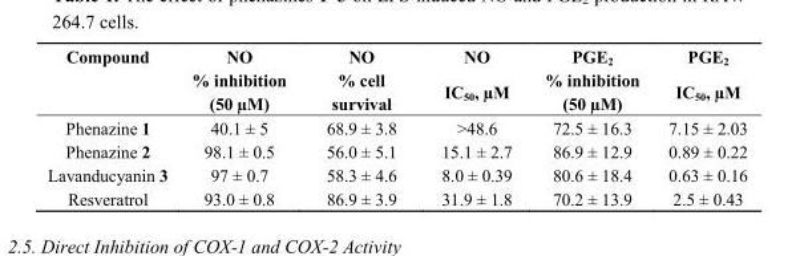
<table><thead><tr><td rowspan="2">Compound</td><td rowspan="2">NO % inhibition (50 µM)</td><td rowspan="2">NO % cell survival</td><td rowspan="2">NO IC<sub>50</sub>, µM</td><td rowspan="2">PGE<sub>2</sub> % inhibition (50 µM)</td><td rowspan="2">PGE<sub>2</sub> IC<sub>50</sub>, µM</td></tr><tr></tr></thead><tbody><tr><td>Phenazine 1</td><td>40.1 ± 5</td><td>68.9 ± 3.8</td><td>&gt;48.6</td><td>72.5 ± 16.3</td><td>7.15 ± 2.03</td></tr><tr><td>Phenazine 2</td><td>98.1 ± 0.5</td><td>56.0 ± 5.1</td><td>15.1 ± 2.7</td><td>86.9 ± 12.9</td><td>0.89 ± 0.22</td></tr><tr><td>Lavanducyanin 3</td><td>97 ± 0.7</td><td>58.3 ± 4.6</td><td>8.0 ± 0.39</td><td>80.6 ± 18.4</td><td>0.63 ± 0.16</td></tr><tr><td>Resveratrol</td><td>93.0 ± 0.8</td><td>86.9 ± 3.9</td><td>31.9 ± 1.8</td><td>70.2 ± 13.9</td><td>2.5 ± 0.43</td></tr></tbody></table>